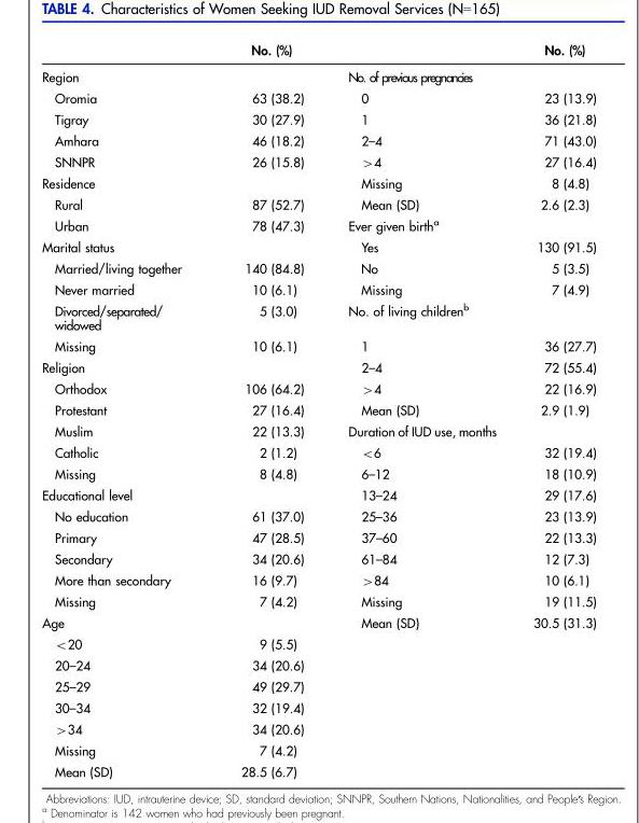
<table><thead><tr><td></td><td>No. (%)</td><td></td><td>No. (%)</td></tr></thead><tbody><tr><td>Region</td><td></td><td>No. of previous pregnancies</td><td></td></tr><tr><td>Oromia</td><td>63 (38.2)</td><td>0</td><td>23 (13.9)</td></tr><tr><td>Tigray</td><td>30 (27.9)</td><td>1</td><td>36 (21.8)</td></tr><tr><td>Amhara</td><td>46 (18.2)</td><td>2–4</td><td>71 (43.0)</td></tr><tr><td>SNNPR</td><td>26 (15.8)</td><td>&gt;4</td><td>27 (16.4)</td></tr><tr><td>Residence</td><td></td><td>Missing</td><td>8 (4.8)</td></tr><tr><td>Rural</td><td>87 (52.7)</td><td>Mean (SD)</td><td>2.6 (2.3)</td></tr><tr><td>Urban</td><td>78 (47.3)</td><td>Ever given birth<sup>a</sup></td><td></td></tr><tr><td>Marital status</td><td></td><td>Yes</td><td>130 (91.5)</td></tr><tr><td>Married/living together</td><td>140 (84.8)</td><td>No</td><td>5 (3.5)</td></tr><tr><td>Never married</td><td>10 (6.1)</td><td>Missing</td><td>7 (4.9)</td></tr><tr><td>Divorced/separated/ widowed</td><td>5 (3.0)</td><td>No. of living children<sup>b</sup></td><td></td></tr><tr><td>Missing</td><td>10 (6.1)</td><td>1</td><td>36 (27.7)</td></tr><tr><td>Religion</td><td></td><td>2–4</td><td>72 (55.4)</td></tr><tr><td>Orthodox</td><td>106 (64.2)</td><td>&gt;4</td><td>22 (16.9)</td></tr><tr><td>Protestant</td><td>27 (16.4)</td><td>Mean (SD)</td><td>2.9 (1.9)</td></tr><tr><td>Muslim</td><td>22 (13.3)</td><td>Duration of IUD use, months</td><td></td></tr><tr><td>Catholic</td><td>2 (1.2)</td><td>&lt;6</td><td>32 (19.4)</td></tr><tr><td>Missing</td><td>8 (4.8)</td><td>6–12</td><td>18 (10.9)</td></tr><tr><td>Educational level</td><td></td><td>13–24</td><td>29 (17.6)</td></tr><tr><td>No education</td><td>61 (37.0)</td><td>25–36</td><td>23 (13.9)</td></tr><tr><td>Primary</td><td>47 (28.5)</td><td>37–60</td><td>22 (13.3)</td></tr><tr><td>Secondary</td><td>34 (20.6)</td><td>61–84</td><td>12 (7.3)</td></tr><tr><td>More than secondary</td><td>16 (9.7)</td><td>&gt;84</td><td>10 (6.1)</td></tr><tr><td>Missing</td><td>7 (4.2)</td><td>Missing</td><td>19 (11.5)</td></tr><tr><td>Age</td><td></td><td>Mean (SD)</td><td>30.5 (31.3)</td></tr><tr><td>&lt;20</td><td>9 (5.5)</td><td></td><td></td></tr><tr><td>20–24</td><td>34 (20.6)</td><td></td><td></td></tr><tr><td>25–29</td><td>49 (29.7)</td><td></td><td></td></tr><tr><td>30–34</td><td>32 (19.4)</td><td></td><td></td></tr><tr><td>&gt;34</td><td>34 (20.6)</td><td></td><td></td></tr><tr><td>Missing</td><td>7 (4.2)</td><td></td><td></td></tr><tr><td>Mean (SD)</td><td>28.5 (6.7)</td><td></td><td></td></tr></tbody></table>